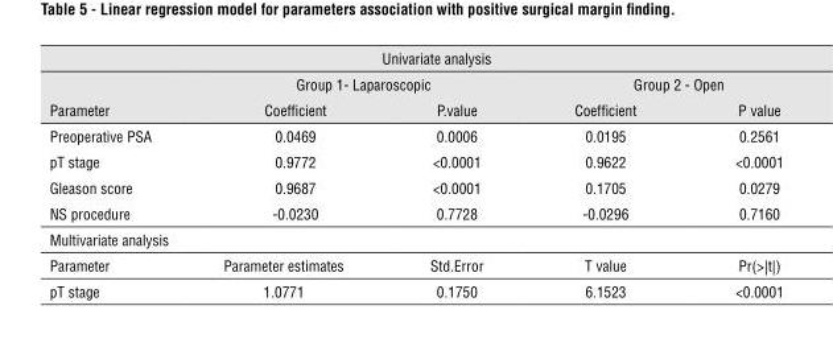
<table><thead><tr><td colspan="5">Univariate analysis</td></tr><tr><td rowspan="2">Parameter</td><td colspan="2">Group 1- Laparoscopic</td><td colspan="2">Group 2 - Open</td></tr><tr><td>Coeffi cient</td><td>P.value</td><td>Coeffi cient</td><td>P value</td></tr></thead><tbody><tr><td>Preoperative PSA</td><td>0.0469</td><td>0.0006</td><td>0.0195</td><td>0.2561</td></tr><tr><td>pT stage</td><td>0.9772</td><td>&lt;0.0001</td><td>0.9622</td><td>&lt;0.0001</td></tr><tr><td>Gleason score</td><td>0.9687</td><td>&lt;0.0001</td><td>0.1705</td><td>0.0279</td></tr><tr><td>NS procedure</td><td>-0.0230</td><td>0.7728</td><td>-0.0296</td><td>0.7160</td></tr><tr><td colspan="5">Multivariate analysis</td></tr><tr><td>Parameter</td><td>Parameter estimates</td><td>Std.Error</td><td>T value</td><td>Pr(&gt;|t|)</td></tr><tr><td>pT stage</td><td>1.0771</td><td>0.1750</td><td>6.1523</td><td>&lt;0.0001</td></tr></tbody></table>